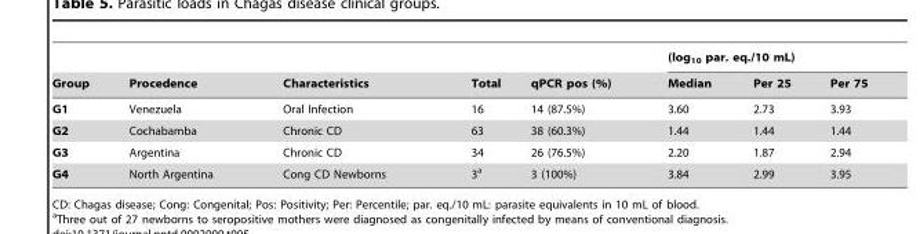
<table><thead><tr><td rowspan="2">Group</td><td rowspan="2">Procedence</td><td rowspan="2">Characteristics</td><td rowspan="2">Total</td><td rowspan="2">qPCR pos (%)</td><td colspan="3">(log<sub>10</sub> par. eq./10 mL)</td></tr><tr><td>Median</td><td>Per 25</td><td>Per 75</td></tr></thead><tbody><tr><td>G1</td><td>Venezuela</td><td>Oral Infection</td><td>16</td><td>14 (87.5%)</td><td>3.60</td><td>2.73</td><td>3.93</td></tr><tr><td>G2</td><td>Cochabamba</td><td>Chronic CD</td><td>63</td><td>38 (60.3%)</td><td>1.44</td><td>1.44</td><td>1.44</td></tr><tr><td>G3</td><td>Argentina</td><td>Chronic CD</td><td>34</td><td>26 (76.5%)</td><td>2.20</td><td>1.87</td><td>2.94</td></tr><tr><td>G4</td><td>North Argentina</td><td>Cong CD Newborns</td><td>3<sup>a</sup></td><td>3 (100%)</td><td>3.84</td><td>2.99</td><td>3.95</td></tr></tbody></table>